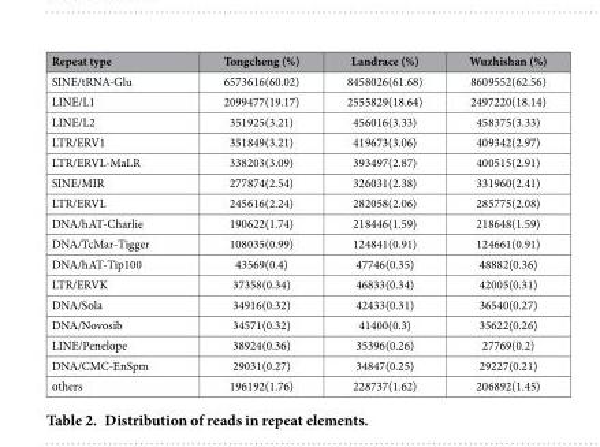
<table><thead><tr><td>Repeat type</td><td>Tongcheng (%)</td><td>Landrace (%)</td><td>Wuzhishan (%)</td></tr></thead><tbody><tr><td>SINE/tRNA-Glu</td><td>6573616(60.02)</td><td>8458026(61.68)</td><td>8609552(62.56)</td></tr><tr><td>LINE/L1</td><td>2099477(19.17)</td><td>2555829(18.64)</td><td>2497220(18.14)</td></tr><tr><td>LINE/L2</td><td>351925(3.21)</td><td>456016(3.33)</td><td>458375(3.33)</td></tr><tr><td>LTR/ERV1</td><td>351849(3.21)</td><td>419673(3.06)</td><td>409342(2.97)</td></tr><tr><td>LTR/ERVL-MaLR</td><td>338203(3.09)</td><td>393497(2.87)</td><td>400515(2.91)</td></tr><tr><td>SINE/MIR</td><td>277874(2.54)</td><td>326031(2.38)</td><td>331960(2.41)</td></tr><tr><td>LTR/ERVL</td><td>245616(2.24)</td><td>282058(2.06)</td><td>285775(2.08)</td></tr><tr><td>DNA/hAT-Charlie</td><td>190622(1.74)</td><td>218446(1.59)</td><td>218648(1.59)</td></tr><tr><td>DNA/TcMar-Tigger</td><td>108035(0.99)</td><td>124841(0.91)</td><td>124661(0.91)</td></tr><tr><td>DNA/hAT-Tip100</td><td>43569(0.4)</td><td>47746(0.35)</td><td>48882(0.36)</td></tr><tr><td>LTR/ERVK</td><td>37358(0.34)</td><td>46833(0.34)</td><td>42005(0.31)</td></tr><tr><td>DNA/Sola</td><td>34916(0.32)</td><td>42433(0.31)</td><td>36540(0.27)</td></tr><tr><td>DNA/Novosib</td><td>34571(0.32)</td><td>41400(0.3)</td><td>35622(0.26)</td></tr><tr><td>LINE/Penelope</td><td>38924(0.36)</td><td>35396(0.26)</td><td>27769(0.2)</td></tr><tr><td>DNA/CMC-EnSpm</td><td>29031(0.27)</td><td>34847(0.25)</td><td>29227(0.21)</td></tr><tr><td>others</td><td>196192(1.76)</td><td>228737(1.62)</td><td>206892(1.45)</td></tr></tbody></table>